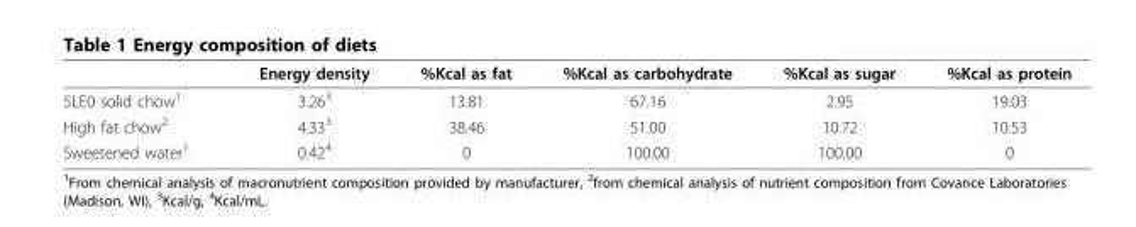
<table><thead><tr><td></td><td>Energy density</td><td>%Kcal as fat</td><td>%Kcal as carbohydrate</td><td>%Kcal as sugar</td><td>%Kcal as protein</td></tr></thead><tbody><tr><td>5LE0 solid chow<sup>1</sup></td><td>3.26<sup>3</sup></td><td>13.81</td><td>67.16</td><td>2.95</td><td>19.03</td></tr><tr><td>High fat chow<sup>2</sup></td><td>4.33<sup>3</sup></td><td>38.46</td><td>51.00</td><td>10.72</td><td>10.53</td></tr><tr><td>Sweetened water<sup>1</sup></td><td>0.42<sup>4</sup></td><td>0</td><td>100.00</td><td>100.00</td><td>0</td></tr></tbody></table>